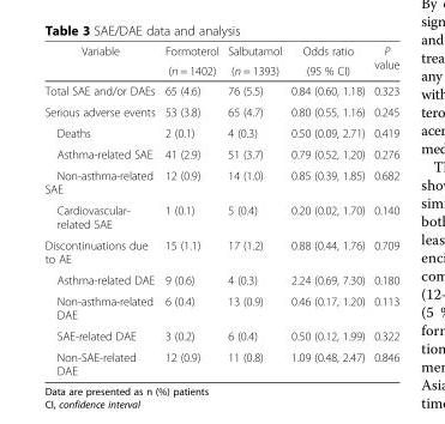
<table><thead><tr><td rowspan="2">Variable</td><td rowspan="2">Formoterol (n = 1402)</td><td rowspan="2">Salbutamol (n = 1393)</td><td rowspan="2">Odds ratio (95 % CI)</td><td rowspan="2">P value</td></tr><tr></tr></thead><tbody><tr><td>Total SAE and/or DAEs</td><td>65 (4.6)</td><td>76 (5.5)</td><td>0.84 (0.60, 1.18)</td><td>0.323</td></tr><tr><td>Serious adverse events</td><td>53 (3.8)</td><td>65 (4.7)</td><td>0.80 (0.55, 1.16)</td><td>0.245</td></tr><tr><td>Deaths</td><td>2 (0.1)</td><td>4 (0.3)</td><td>0.50 (0.09, 2.71)</td><td>0.419</td></tr><tr><td>Asthma-related SAE</td><td>41 (2.9)</td><td>51 (3.7)</td><td>0.79 (0.52, 1.20)</td><td>0.276</td></tr><tr><td>Non-asthma-related SAE</td><td>12 (0.9)</td><td>14 (1.0)</td><td>0.85 (0.39, 1.85)</td><td>0.682</td></tr><tr><td>Cardiovascular- related SAE</td><td>1 (0.1)</td><td>5 (0.4)</td><td>0.20 (0.02, 1.70)</td><td>0.140</td></tr><tr><td>Discontinuations due to AE</td><td>15 (1.1)</td><td>17 (1.2)</td><td>0.88 (0.44, 1.76)</td><td>0.709</td></tr><tr><td>Asthma-related DAE</td><td>9 (0.6)</td><td>4 (0.3)</td><td>2.24 (0.69, 7.30)</td><td>0.180</td></tr><tr><td>Non-asthma-related DAE</td><td>6 (0.4)</td><td>13 (0.9)</td><td>0.46 (0.17, 1.20)</td><td>0.113</td></tr><tr><td>SAE-related DAE</td><td>3 (0.2)</td><td>6 (0.4)</td><td>0.50 (0.12, 1.99)</td><td>0.322</td></tr><tr><td>Non-SAE-related DAE</td><td>12 (0.9)</td><td>11 (0.8)</td><td>1.09 (0.48, 2.47)</td><td>0.846</td></tr></tbody></table>